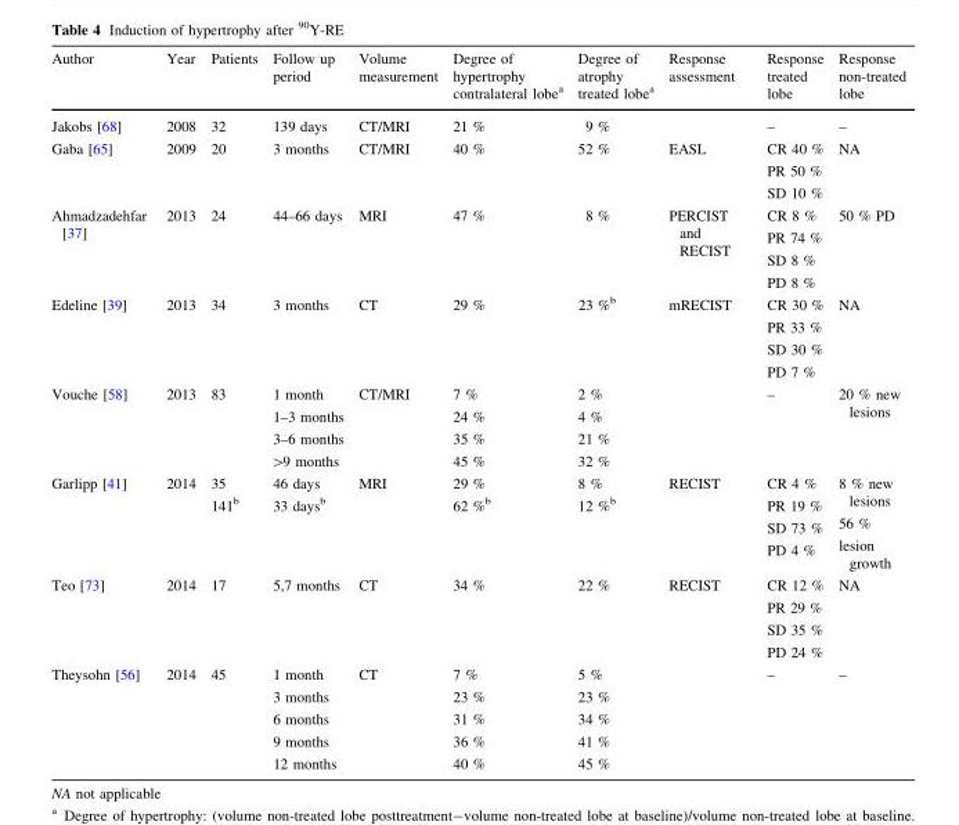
<table><thead><tr><td>Author</td><td>Year</td><td>Patients</td><td>Follow up period</td><td>Volume measurement</td><td>Degree of hypertrophy contralateral lobe<sup>a</sup></td><td>Degree of atrophy treated lobe<sup>a</sup></td><td>Response assessment</td><td>Response treated lobe</td><td>Response non-treated lobe</td></tr></thead><tbody><tr><td>Jakobs [68]</td><td>2008</td><td>32</td><td>139 days</td><td>CT/MRI</td><td>21 %</td><td>9 %</td><td></td><td>–</td><td>–</td></tr><tr><td>Gaba [65]</td><td>2009</td><td>20</td><td>3 months</td><td>CT/MRI</td><td>40 %</td><td>52 %</td><td>EASL</td><td>CR 40 % PR 50 % SD 10 %</td><td>NA</td></tr><tr><td>Ahmadzadehfar [37]</td><td>2013</td><td>24</td><td>44–66 days</td><td>MRI</td><td>47 %</td><td>8 %</td><td>PERCIST and RECIST</td><td>CR 8 % PR 74 % SD 8 % PD 8 %</td><td>50 % PD</td></tr><tr><td>Edeline [39]</td><td>2013</td><td>34</td><td>3 months</td><td>CT</td><td>29 %</td><td>23 %<sup>b</sup></td><td>mRECIST</td><td>CR 30 % PR 33 % SD 30 % PD 7 %</td><td>NA</td></tr><tr><td>Vouche [58]</td><td>2013</td><td>83</td><td>1 month 1–3 months 3–6 months &gt;9 months</td><td>CT/MRI</td><td>7 % 24 % 35 % 45 %</td><td>2 % 4 % 21 % 32 %</td><td></td><td>–</td><td>20 % new lesions</td></tr><tr><td>Garlipp [41]</td><td>2014</td><td>35 141<sup>b</sup></td><td>46 days 33 days<sup>b</sup></td><td>MRI</td><td>29 % 62 %<sup>b</sup></td><td>8 % 12 %<sup>b</sup></td><td>RECIST</td><td>CR 4 % PR 19 % SD 73 % PD 4 %</td><td>8 % new lesions 56 % lesion growth</td></tr><tr><td>Teo [73]</td><td>2014</td><td>17</td><td>5,7 months</td><td>CT</td><td>34 %</td><td>22 %</td><td>RECIST</td><td>CR 12 % PR 29 % SD 35 % PD 24 %</td><td>NA</td></tr><tr><td>Theysohn [56]</td><td>2014</td><td>45</td><td>1 month 3 months 6 months 9 months 12 months</td><td>CT</td><td>7 % 23 % 31 % 36 % 40 %</td><td>5 % 23 % 34 % 41 % 45 %</td><td></td><td>–</td><td>–</td></tr></tbody></table>